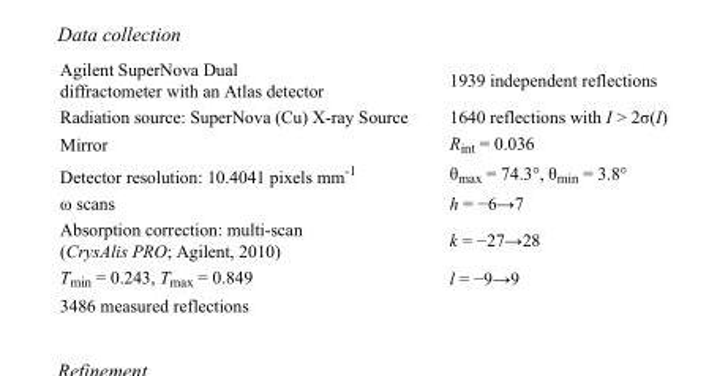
<table><tbody><tr><td>Agilent SuperNova Dual diffractometer with an Atlas detector</td><td>1939 independent reflections</td></tr><tr><td>Radiation source: SuperNova (Cu) X-ray Source</td><td>1640 reflections with I &gt; 2σ(I)</td></tr><tr><td>Mirror</td><td>R<sub>int</sub> = 0.036</td></tr><tr><td>Detector resolution: 10.4041 pixels mm<sup>-1</sup></td><td>θ<sub>max</sub> = 74.3°, θ<sub>min</sub> = 3.8°</td></tr><tr><td>ω scans</td><td>h = −6→7</td></tr><tr><td>Absorption correction: multi-scan (CrysAlis PRO; Agilent, 2010)</td><td>k = −27→28</td></tr><tr><td>T<sub>min</sub> = 0.243, T<sub>max</sub> = 0.849</td><td>l = −9→9</td></tr><tr><td>3486 measured reflections</td><td></td></tr></tbody></table>